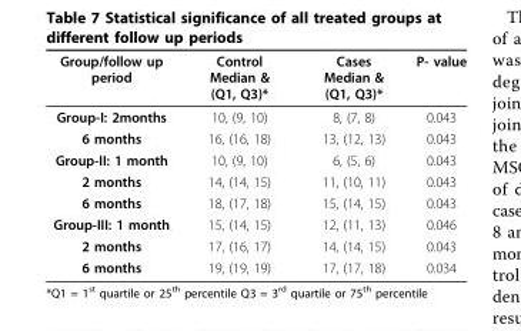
<table><thead><tr><td>Group/follow up period</td><td>Control Median &amp; (Q1, Q3)*</td><td>Cases Median &amp; (Q1, Q3)*</td><td>P- value</td></tr></thead><tbody><tr><td>Group-I: 2months</td><td>10, (9, 10)</td><td>8, (7, 8)</td><td>0.043</td></tr><tr><td>6 months</td><td>16, (16, 18)</td><td>13, (12, 13)</td><td>0.043</td></tr><tr><td>Group-II: 1 month</td><td>10, (9, 10)</td><td>6, (5, 6)</td><td>0.043</td></tr><tr><td>2 months</td><td>14, (14, 15)</td><td>11, (10, 11)</td><td>0.043</td></tr><tr><td>6 months</td><td>18, (17, 18)</td><td>15, (14, 15)</td><td>0.043</td></tr><tr><td>Group-III: 1 month</td><td>15, (14, 15)</td><td>12, (11, 13)</td><td>0.046</td></tr><tr><td>2 months</td><td>17, (16, 17)</td><td>14, (14, 15)</td><td>0.043</td></tr><tr><td>6 months</td><td>19, (19, 19)</td><td>17, (17, 18)</td><td>0.034</td></tr></tbody></table>